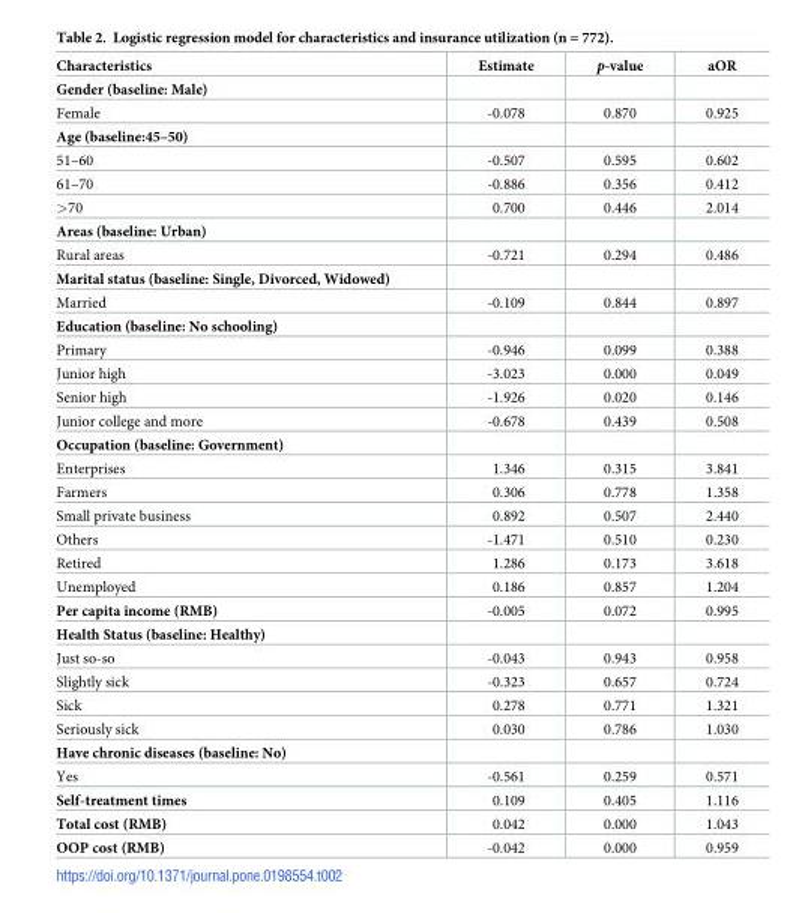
<table><thead><tr><td>Characteristics</td><td>Estimate</td><td>p-value</td><td>aOR</td></tr></thead><tbody><tr><td colspan="4">Gender (baseline: Male)</td></tr><tr><td>Female</td><td>-0.078</td><td>0.870</td><td>0.925</td></tr><tr><td colspan="4">Age (baseline:45–50)</td></tr><tr><td>51–60</td><td>-0.507</td><td>0.595</td><td>0.602</td></tr><tr><td>61–70</td><td>-0.886</td><td>0.356</td><td>0.412</td></tr><tr><td>&gt;70</td><td>0.700</td><td>0.446</td><td>2.014</td></tr><tr><td colspan="4">Areas (baseline: Urban)</td></tr><tr><td>Rural areas</td><td>-0.721</td><td>0.294</td><td>0.486</td></tr><tr><td colspan="4">Marital status (baseline: Single, Divorced, Widowed)</td></tr><tr><td>Married</td><td>-0.109</td><td>0.844</td><td>0.897</td></tr><tr><td colspan="4">Education (baseline: No schooling)</td></tr><tr><td>Primary</td><td>-0.946</td><td>0.099</td><td>0.388</td></tr><tr><td>Junior high</td><td>-3.023</td><td>0.000</td><td>0.049</td></tr><tr><td>Senior high</td><td>-1.926</td><td>0.020</td><td>0.146</td></tr><tr><td>Junior college and more</td><td>-0.678</td><td>0.439</td><td>0.508</td></tr><tr><td colspan="4">Occupation (baseline: Government)</td></tr><tr><td>Enterprises</td><td>1.346</td><td>0.315</td><td>3.841</td></tr><tr><td>Farmers</td><td>0.306</td><td>0.778</td><td>1.358</td></tr><tr><td>Small private business</td><td>0.892</td><td>0.507</td><td>2.440</td></tr><tr><td>Others</td><td>-1.471</td><td>0.510</td><td>0.230</td></tr><tr><td>Retired</td><td>1.286</td><td>0.173</td><td>3.618</td></tr><tr><td>Unemployed</td><td>0.186</td><td>0.857</td><td>1.204</td></tr><tr><td>Per capita income (RMB)</td><td>-0.005</td><td>0.072</td><td>0.995</td></tr><tr><td colspan="4">Health Status (baseline: Healthy)</td></tr><tr><td>Just so-so</td><td>-0.043</td><td>0.943</td><td>0.958</td></tr><tr><td>Slightly sick</td><td>-0.323</td><td>0.657</td><td>0.724</td></tr><tr><td>Sick</td><td>0.278</td><td>0.771</td><td>1.321</td></tr><tr><td>Seriously sick</td><td>0.030</td><td>0.786</td><td>1.030</td></tr><tr><td colspan="4">Have chronic diseases (baseline: No)</td></tr><tr><td>Yes</td><td>-0.561</td><td>0.259</td><td>0.571</td></tr><tr><td>Self-treatment times</td><td>0.109</td><td>0.405</td><td>1.116</td></tr><tr><td>Total cost (RMB)</td><td>0.042</td><td>0.000</td><td>1.043</td></tr><tr><td>OOP cost (RMB)</td><td>-0.042</td><td>0.000</td><td>0.959</td></tr></tbody></table>